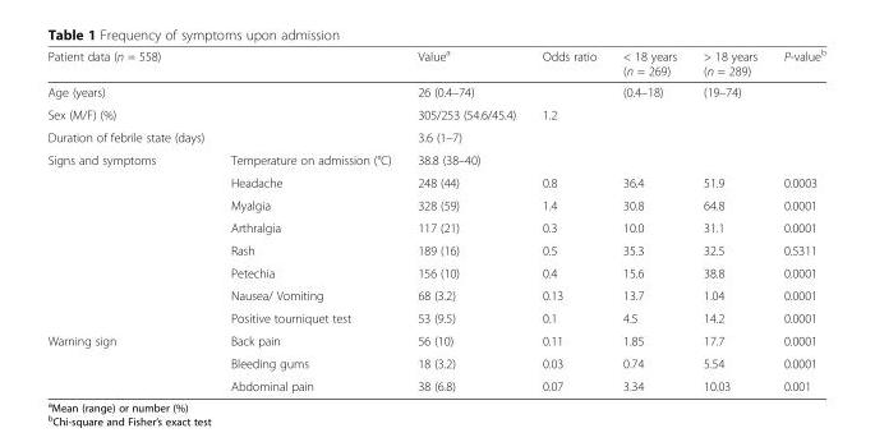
<table><thead><tr><td rowspan="2" colspan="2">Patient data (n = 558) Age (years)</td><td rowspan="3">Value<sup>a</sup> 26 (0.4–74) 305/253 (54.6/45.4)</td><td rowspan="3">Odds ratio 1.2</td><td rowspan="3">&lt; 18 years (n = 269) (0.4–18)</td><td rowspan="3">&gt; 18 years (n = 289) (19–74)</td><td rowspan="3">P-value<sup>b</sup></td></tr><tr></tr><tr><td>Sex (M/F) (%)</td><td></td></tr></thead><tbody><tr><td>Duration of febrile state (days)</td><td></td><td>3.6 (1–7)</td><td></td><td></td><td></td><td></td></tr><tr><td rowspan="8">Signs and symptoms</td><td>Temperature on admission (°C)</td><td>38.8 (38–40)</td><td></td><td></td><td></td><td></td></tr><tr><td>Headache</td><td>248 (44)</td><td>0.8</td><td>36.4</td><td>51.9</td><td>0.0003</td></tr><tr><td>Myalgia</td><td>328 (59)</td><td>1.4</td><td>30.8</td><td>64.8</td><td>0.0001</td></tr><tr><td>Arthralgia</td><td>117 (21)</td><td>0.3</td><td>10.0</td><td>31.1</td><td>0.0001</td></tr><tr><td>Rash</td><td>189 (16)</td><td>0.5</td><td>35.3</td><td>32.5</td><td>0.5311</td></tr><tr><td>Petechia</td><td>156 (10)</td><td>0.4</td><td>15.6</td><td>38.8</td><td>0.0001</td></tr><tr><td>Nausea/ Vomiting</td><td>68 (3.2)</td><td>0.13</td><td>13.7</td><td>1.04</td><td>0.0001</td></tr><tr><td>Positive tourniquet test</td><td>53 (9.5)</td><td>0.1</td><td>4.5</td><td>14.2</td><td>0.0001</td></tr><tr><td rowspan="3">Warning sign</td><td>Back pain</td><td>56 (10)</td><td>0.11</td><td>1.85</td><td>17.7</td><td>0.0001</td></tr><tr><td>Bleeding gums</td><td>18 (3.2)</td><td>0.03</td><td>0.74</td><td>5.54</td><td>0.0001</td></tr><tr><td>Abdominal pain</td><td>38 (6.8)</td><td>0.07</td><td>3.34</td><td>10.03</td><td>0.001</td></tr></tbody></table>